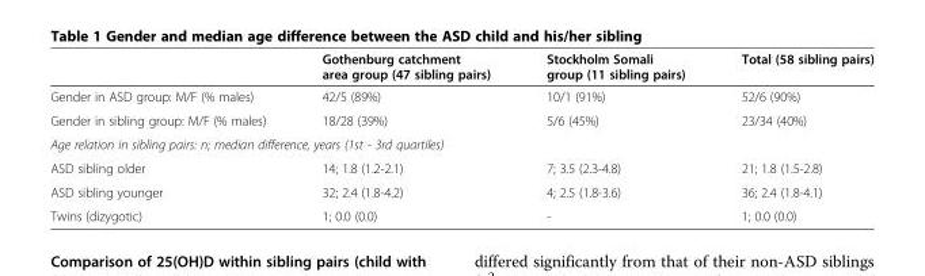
<table><thead><tr><td></td><td>Gothenburg catchment area group (47 sibling pairs)</td><td>Stockholm Somali group (11 sibling pairs)</td><td>Total (58 sibling pairs)</td></tr></thead><tbody><tr><td>Gender in ASD group: M/F (% males)</td><td>42/5 (89%)</td><td>10/1 (91%)</td><td>52/6 (90%)</td></tr><tr><td>Gender in sibling group: M/F (% males)</td><td>18/28 (39%)</td><td>5/6 (45%)</td><td>23/34 (40%)</td></tr><tr><td colspan="4">Age relation in sibling pairs: n; median difference, years (1st - 3rd quartiles)</td></tr><tr><td>ASD sibling older</td><td>14; 1.8 (1.2-2.1)</td><td>7; 3.5 (2.3-4.8)</td><td>21; 1.8 (1.5-2.8)</td></tr><tr><td>ASD sibling younger</td><td>32; 2.4 (1.8-4.2)</td><td>4; 2.5 (1.8-3.6)</td><td>36; 2.4 (1.8-4.1)</td></tr><tr><td>Twins (dizygotic)</td><td>1; 0.0 (0.0)</td><td>-</td><td>1; 0.0 (0.0)</td></tr></tbody></table>